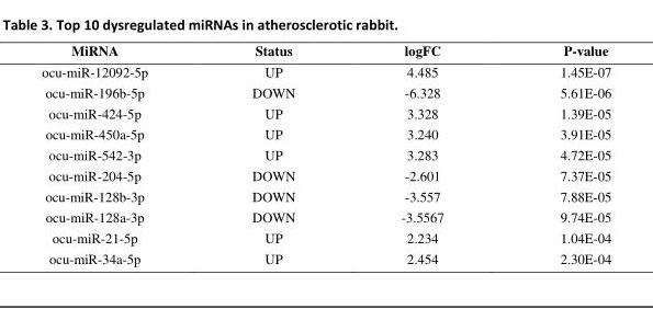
<table><tbody><tr><td>MiRNA</td><td>Status</td><td>logFC</td><td>P-value</td></tr><tr><td>ocu-miR-12092-5p</td><td>UP</td><td>4.485</td><td>1.45E-07</td></tr><tr><td>ocu-miR-196b-5p</td><td>DOWN</td><td>-6.328</td><td>5.61E-06</td></tr><tr><td>ocu-miR-424-5p</td><td>UP</td><td>3.328</td><td>1.39E-05</td></tr><tr><td>ocu-miR-450a-5p</td><td>UP</td><td>3.240</td><td>3.91E-05</td></tr><tr><td>ocu-miR-542-3p</td><td>UP</td><td>3.283</td><td>4.72E-05</td></tr><tr><td>ocu-miR-204-5p</td><td>DOWN</td><td>-2.601</td><td>7.37E-05</td></tr><tr><td>ocu-miR-128b-3p</td><td>DOWN</td><td>-3.557</td><td>7.88E-05</td></tr><tr><td>ocu-miR-128a-3p</td><td>DOWN</td><td>-3.5567</td><td>9.74E-05</td></tr><tr><td>ocu-miR-21-5p</td><td>UP</td><td>2.234</td><td>1.04E-04</td></tr><tr><td>ocu-miR-34a-5p</td><td>UP</td><td>2.454</td><td>2.30E-04</td></tr></tbody></table>